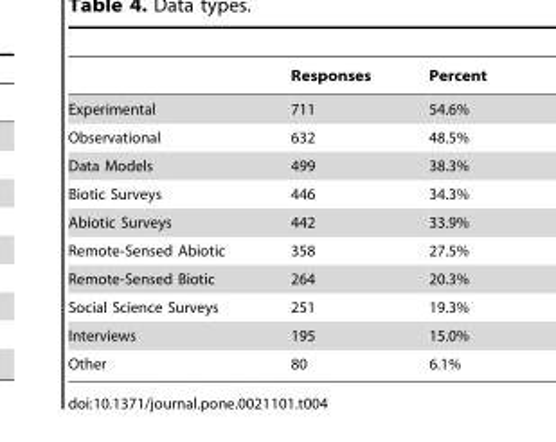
<table><thead><tr><td></td><td>Responses</td><td>Percent</td></tr></thead><tbody><tr><td>Experimental</td><td>711</td><td>54.6%</td></tr><tr><td>Observational</td><td>632</td><td>48.5%</td></tr><tr><td>Data Models</td><td>499</td><td>38.3%</td></tr><tr><td>Biotic Surveys</td><td>446</td><td>34.3%</td></tr><tr><td>Abiotic Surveys</td><td>442</td><td>33.9%</td></tr><tr><td>Remote-Sensed Abiotic</td><td>358</td><td>27.5%</td></tr><tr><td>Remote-Sensed Biotic</td><td>264</td><td>20.3%</td></tr><tr><td>Social Science Surveys</td><td>251</td><td>19.3%</td></tr><tr><td>Interviews</td><td>195</td><td>15.0%</td></tr><tr><td>Other</td><td>80</td><td>6.1%</td></tr></tbody></table>